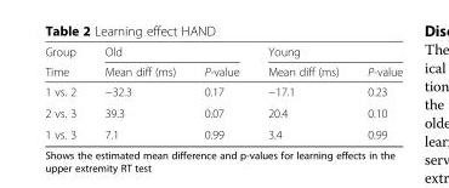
<table><thead><tr><td rowspan="2">Group Time</td><td colspan="2">Old</td><td colspan="2">Young</td></tr><tr><td>Mean diff (ms)</td><td>P-value</td><td>Mean diff (ms)</td><td>P-value</td></tr></thead><tbody><tr><td>1 vs. 2</td><td>−32.3</td><td>0.17</td><td>−17.1</td><td>0.23</td></tr><tr><td>2 vs. 3</td><td>39.3</td><td>0.07</td><td>20.4</td><td>0.10</td></tr><tr><td>1 vs. 3</td><td>7.1</td><td>0.99</td><td>3.4</td><td>0.99</td></tr></tbody></table>